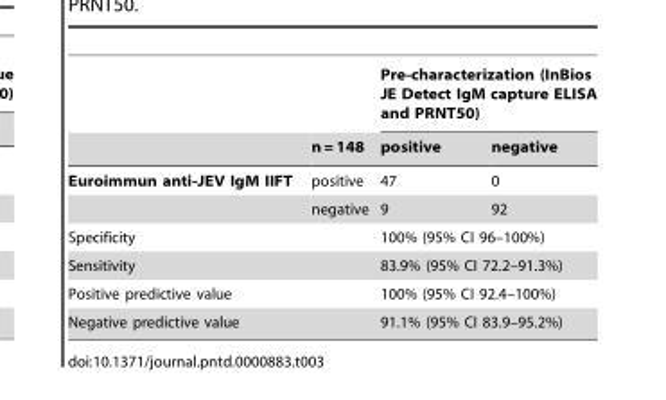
<table><thead><tr><td rowspan="2"></td><td rowspan="2">n = 148</td><td colspan="2">Pre-characterization (InBios JE Detect IgM capture ELISA and PRNT50)</td></tr><tr><td>positive</td><td>negative</td></tr></thead><tbody><tr><td rowspan="2">Euroimmun anti-JEV IgM IIFT</td><td>positive</td><td>47</td><td>0</td></tr><tr><td>negative</td><td>9</td><td>92</td></tr><tr><td colspan="2">Specificity</td><td colspan="2">100% (95% CI 96–100%)</td></tr><tr><td colspan="2">Sensitivity</td><td colspan="2">83.9% (95% CI 72.2–91.3%)</td></tr><tr><td colspan="2">Positive predictive value</td><td colspan="2">100% (95% CI 92.4–100%)</td></tr><tr><td colspan="2">Negative predictive value</td><td colspan="2">91.1% (95% CI 83.9–95.2%)</td></tr></tbody></table>